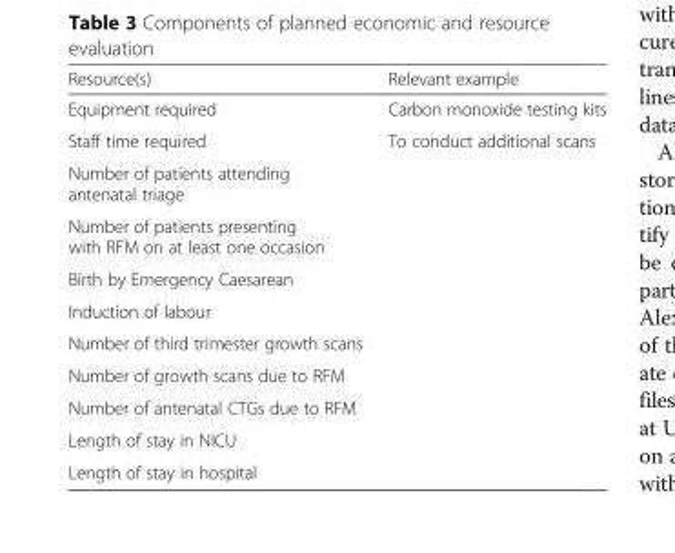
<table><thead><tr><td>Resource(s)</td><td>Relevant example</td></tr></thead><tbody><tr><td>Equipment required</td><td>Carbon monoxide testing kits</td></tr><tr><td>Staff time required</td><td>To conduct additional scans</td></tr><tr><td colspan="2">Number of patients attending antenatal triage</td></tr><tr><td colspan="2">Number of patients presenting with RFM on at least one occasion</td></tr><tr><td colspan="2">Birth by Emergency Caesarean</td></tr><tr><td colspan="2">Induction of labour</td></tr><tr><td colspan="2">Number of third trimester growth scans</td></tr><tr><td colspan="2">Number of growth scans due to RFM</td></tr><tr><td colspan="2">Number of antenatal CTGs due to RFM</td></tr><tr><td colspan="2">Length of stay in NICU</td></tr><tr><td>Length of stay in hospital</td><td></td></tr></tbody></table>